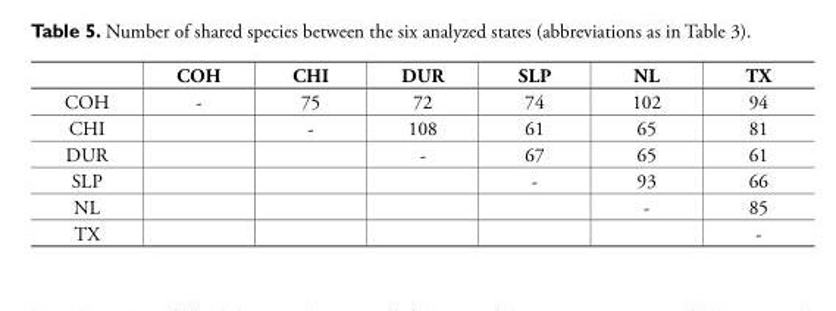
<table><thead><tr><td></td><td>COH</td><td>CHI</td><td>DUR</td><td>SLP</td><td>NL</td><td>TX</td></tr></thead><tbody><tr><td>COH</td><td>-</td><td>75</td><td>72</td><td>74</td><td>102</td><td>94</td></tr><tr><td>CHI</td><td></td><td>-</td><td>108</td><td>61</td><td>65</td><td>81</td></tr><tr><td>DUR</td><td></td><td></td><td>-</td><td>67</td><td>65</td><td>61</td></tr><tr><td>SLP</td><td></td><td></td><td></td><td>-</td><td>93</td><td>66</td></tr><tr><td>NL</td><td></td><td></td><td></td><td></td><td>-</td><td>85</td></tr><tr><td>TX</td><td></td><td></td><td></td><td></td><td></td><td>-</td></tr></tbody></table>